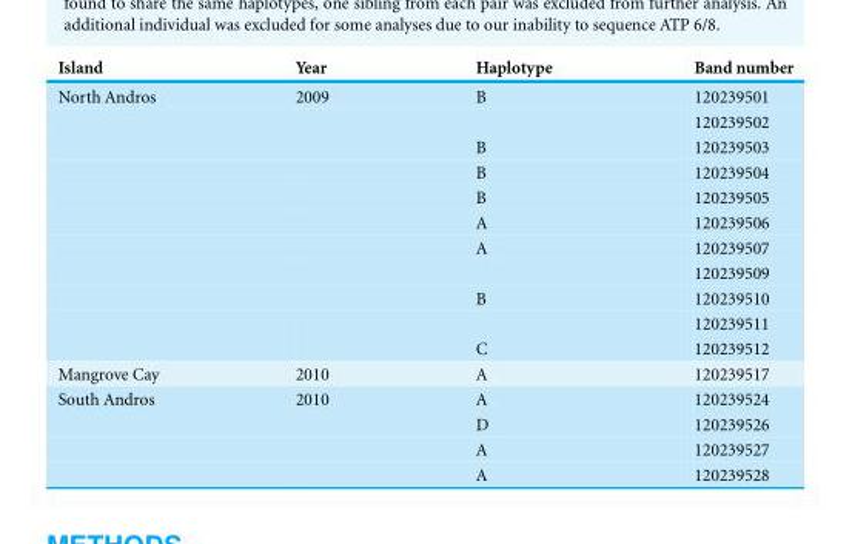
<table><thead><tr><td>Island</td><td>Year</td><td>Haplotype</td><td>Band number</td></tr></thead><tbody><tr><td rowspan="11">North Andros</td><td>2009</td><td>B</td><td>120239501</td></tr><tr><td></td><td></td><td>120239502</td></tr><tr><td></td><td>B</td><td>120239503</td></tr><tr><td></td><td>B</td><td>120239504</td></tr><tr><td></td><td>B</td><td>120239505</td></tr><tr><td></td><td>A</td><td>120239506</td></tr><tr><td></td><td>A</td><td>120239507</td></tr><tr><td></td><td></td><td>120239509</td></tr><tr><td></td><td>B</td><td>120239510</td></tr><tr><td></td><td></td><td>120239511</td></tr><tr><td></td><td>C</td><td>120239512</td></tr><tr><td>Mangrove Cay</td><td>2010</td><td>A</td><td>120239517</td></tr><tr><td rowspan="4">South Andros</td><td>2010</td><td>A</td><td>120239524</td></tr><tr><td></td><td>D</td><td>120239526</td></tr><tr><td></td><td>A</td><td>120239527</td></tr><tr><td></td><td>A</td><td>120239528</td></tr></tbody></table>